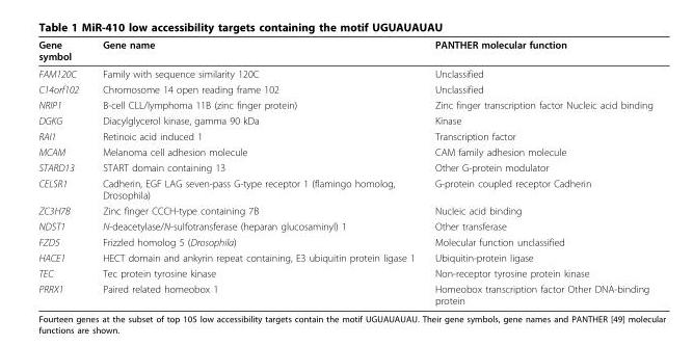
<table><thead><tr><td>Gene symbol</td><td>Gene name</td><td>PANTHER molecular function</td></tr></thead><tbody><tr><td>FAM120C</td><td>Family with sequence similarity 120C</td><td>Unclassified</td></tr><tr><td>C14orf102</td><td>Chromosome 14 open reading frame 102</td><td>Unclassified</td></tr><tr><td>NRIP1</td><td>B-cell CLL/lymphoma 11B (zinc finger protein)</td><td>Zinc finger transcription factor Nucleic acid binding</td></tr><tr><td>DGKG</td><td>Diacylglycerol kinase, gamma 90 kDa</td><td>Kinase</td></tr><tr><td>RAI1</td><td>Retinoic acid induced 1</td><td>Transcription factor</td></tr><tr><td>MCAM</td><td>Melanoma cell adhesion molecule</td><td>CAM family adhesion molecule</td></tr><tr><td>STARD13</td><td>START domain containing 13</td><td>Other G-protein modulator</td></tr><tr><td>CELSR1</td><td>Cadherin, EGF LAG seven-pass G-type receptor 1 (flamingo homolog, Drosophila)</td><td>G-protein coupled receptor Cadherin</td></tr><tr><td>ZC3H7B</td><td>Zinc finger CCCH-type containing 7B</td><td>Nucleic acid binding</td></tr><tr><td>NDST1</td><td>N-deacetylase/N-sulfotransferase (heparan glucosaminyl) 1</td><td>Other transferase</td></tr><tr><td>FZD5</td><td>Frizzled homolog 5 (Drosophila)</td><td>Molecular function unclassified</td></tr><tr><td>HACE1</td><td>HECT domain and ankyrin repeat containing, E3 ubiquitin protein ligase 1</td><td>Ubiquitin-protein ligase</td></tr><tr><td>TEC</td><td>Tec protein tyrosine kinase</td><td>Non-receptor tyrosine protein kinase</td></tr><tr><td>PRRX1</td><td>Paired related homeobox 1</td><td>Homeobox transcription factor Other DNA-binding protein</td></tr></tbody></table>